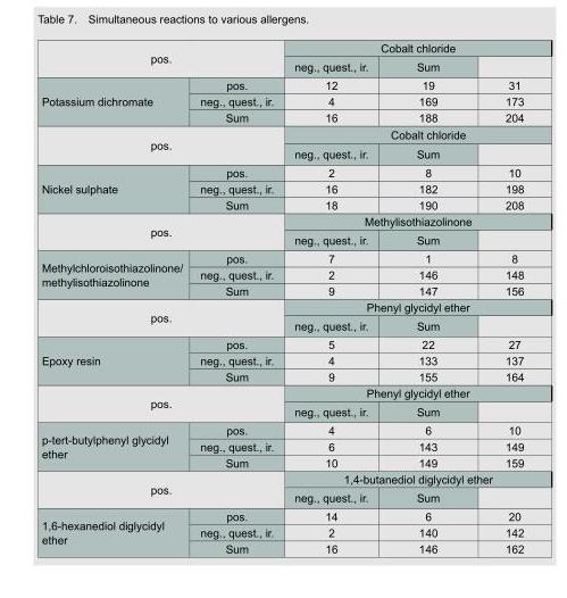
<table><tbody><tr><td rowspan="2" colspan="2">pos.</td><td colspan="3">Cobalt chloride</td></tr><tr><td>neg., quest., ir.</td><td>Sum</td><td></td></tr><tr><td rowspan="3">Potassium dichromate</td><td>pos.</td><td>12</td><td>19</td><td>31</td></tr><tr><td>neg., quest., ir.</td><td>4</td><td>169</td><td>173</td></tr><tr><td>Sum</td><td>16</td><td>188</td><td>204</td></tr><tr><td rowspan="2" colspan="2">pos.</td><td colspan="3">Cobalt chloride</td></tr><tr><td>neg., quest., ir.</td><td>Sum</td><td></td></tr><tr><td rowspan="3">Nickel sulphate</td><td>pos.</td><td>2</td><td>8</td><td>10</td></tr><tr><td>neg., quest., ir.</td><td>16</td><td>182</td><td>198</td></tr><tr><td>Sum</td><td>18</td><td>190</td><td>208</td></tr><tr><td rowspan="2" colspan="2">pos.</td><td colspan="3">Methylisothiazolinone</td></tr><tr><td>neg., quest., ir.</td><td>Sum</td><td></td></tr><tr><td rowspan="3">Methylchloroisothiazolinone/ methylisothiazolinone</td><td>pos.</td><td>7</td><td>1</td><td>8</td></tr><tr><td>neg., quest., ir.</td><td>2</td><td>146</td><td>148</td></tr><tr><td>Sum</td><td>9</td><td>147</td><td>156</td></tr><tr><td rowspan="2" colspan="2">pos.</td><td colspan="3">Phenyl glycidyl ether</td></tr><tr><td>neg., quest., ir.</td><td>Sum</td><td></td></tr><tr><td rowspan="3">Epoxy resin</td><td>pos.</td><td>5</td><td>22</td><td>27</td></tr><tr><td>neg., quest., ir.</td><td>4</td><td>133</td><td>137</td></tr><tr><td>Sum</td><td>9</td><td>155</td><td>164</td></tr><tr><td rowspan="2" colspan="2">pos.</td><td colspan="3">Phenyl glycidyl ether</td></tr><tr><td>neg., quest., ir.</td><td>Sum</td><td></td></tr><tr><td rowspan="3">p-tert-butylphenyl glycidyl ether</td><td>pos.</td><td>4</td><td>6</td><td>10</td></tr><tr><td>neg., quest., ir.</td><td>6</td><td>143</td><td>149</td></tr><tr><td>Sum</td><td>10</td><td>149</td><td>159</td></tr><tr><td rowspan="2" colspan="2">pos.</td><td colspan="3">1,4-butanediol diglycidyl ether</td></tr><tr><td>neg., quest., ir.</td><td>Sum</td><td></td></tr><tr><td rowspan="3">1,6-hexanediol diglycidyl ether</td><td>pos.</td><td>14</td><td>6</td><td>20</td></tr><tr><td>neg., quest., ir.</td><td>2</td><td>140</td><td>142</td></tr><tr><td>Sum</td><td>16</td><td>146</td><td>162</td></tr></tbody></table>